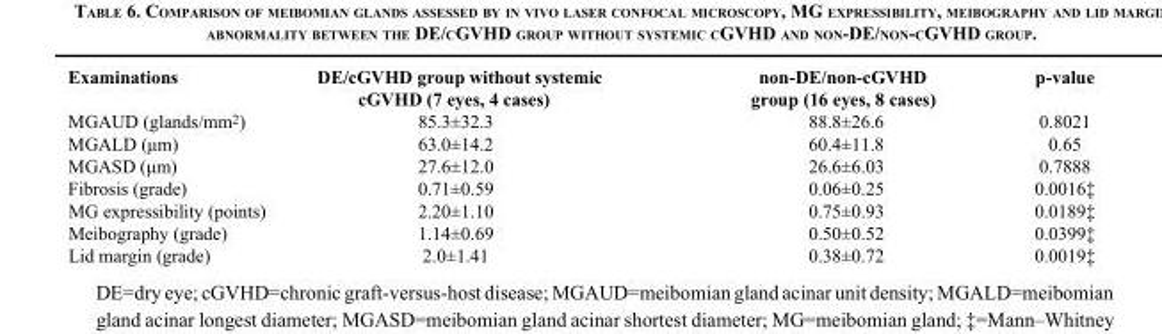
<table><thead><tr><td>Examinations</td><td>DE/cGVHD group without systemic cGVHD (7 eyes, 4 cases)</td><td>non-DE/non-cGVHD group (16 eyes, 8 cases)</td><td>p-value</td></tr></thead><tbody><tr><td>MGAUD (glands/mm<sup>2</sup>)</td><td>85.3±32.3</td><td>88.8±26.6</td><td>0.8021</td></tr><tr><td>MGALD (μm)</td><td>63.0±14.2</td><td>60.4±11.8</td><td>0.65</td></tr><tr><td>MGASD (μm)</td><td>27.6±12.0</td><td>26.6±6.03</td><td>0.7888</td></tr><tr><td>Fibrosis (grade)</td><td>0.71±0.59</td><td>0.06±0.25</td><td>0.0016‡</td></tr><tr><td>MG expressibility (points)</td><td>2.20±1.10</td><td>0.75±0.93</td><td>0.0189‡</td></tr><tr><td>Meibography (grade)</td><td>1.14±0.69</td><td>0.50±0.52</td><td>0.0399‡</td></tr><tr><td>Lid margin (grade)</td><td>2.0±1.41</td><td>0.38±0.72</td><td>0.0019‡</td></tr></tbody></table>